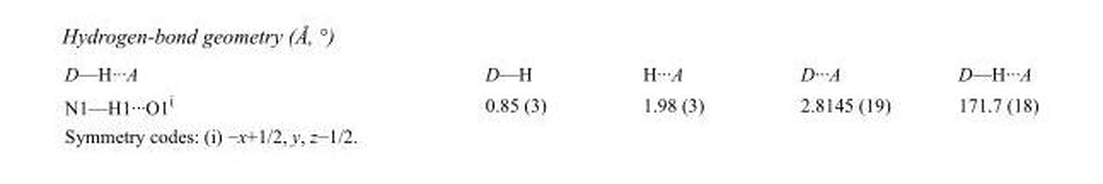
<table><tbody><tr><td>D—H···A</td><td>D—H</td><td>H···A</td><td>D···A</td><td>D—H···A</td></tr><tr><td>N1—H1···O1<sup>i</sup></td><td>0.85 (3)</td><td>1.98 (3)</td><td>2.8145 (19)</td><td>171.7 (18)</td></tr></tbody></table>